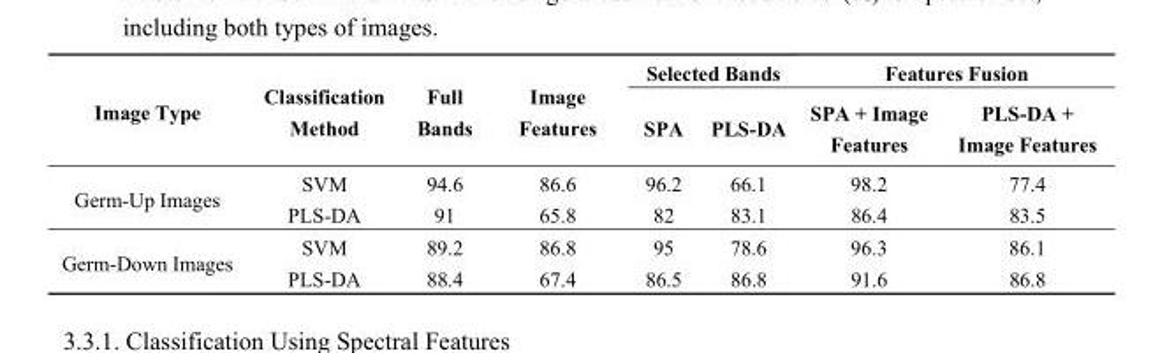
<table><thead><tr><td rowspan="2">Image Type</td><td rowspan="2">Classification Method</td><td rowspan="2">Full Bands</td><td rowspan="2">Image Features</td><td colspan="2">Selected Bands</td><td colspan="2">Features Fusion</td></tr><tr><td>SPA</td><td>PLS-DA</td><td>SPA + Image Features</td><td>PLS-DA + Image Features</td></tr></thead><tbody><tr><td rowspan="2">Germ-Up Images</td><td>SVM</td><td>94.6</td><td>86.6</td><td>96.2</td><td>66.1</td><td>98.2</td><td>77.4</td></tr><tr><td>PLS-DA</td><td>91</td><td>65.8</td><td>82</td><td>83.1</td><td>86.4</td><td>83.5</td></tr><tr><td rowspan="2">Germ-Down Images</td><td>SVM</td><td>89.2</td><td>86.8</td><td>95</td><td>78.6</td><td>96.3</td><td>86.1</td></tr><tr><td>PLS-DA</td><td>88.4</td><td>67.4</td><td>86.5</td><td>86.8</td><td>91.6</td><td>86.8</td></tr></tbody></table>